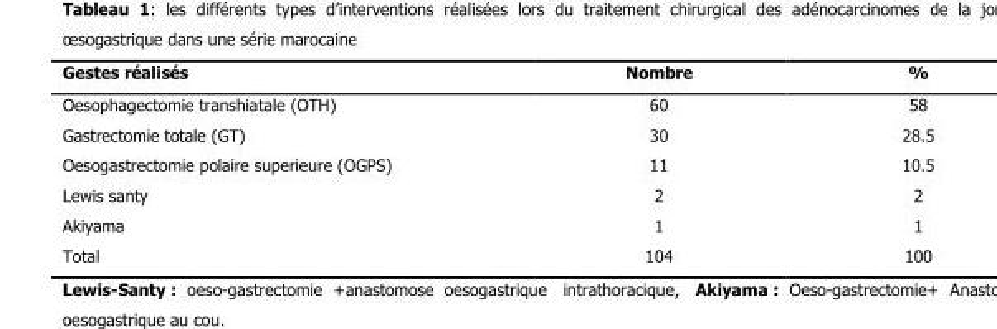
<table><thead><tr><td>Gestes réalisés</td><td>Nombre</td><td>%</td></tr></thead><tbody><tr><td>Oesophagectomie transhiatale (OTH)</td><td>60</td><td>58</td></tr><tr><td>Gastrectomie totale (GT)</td><td>30</td><td>28.5</td></tr><tr><td>Oesogastrectomie polaire superieure (OGPS)</td><td>11</td><td>10.5</td></tr><tr><td>Lewis santy</td><td>2</td><td>2</td></tr><tr><td>Akiyama</td><td>1</td><td>1</td></tr><tr><td>Total</td><td>104</td><td>100</td></tr></tbody></table>